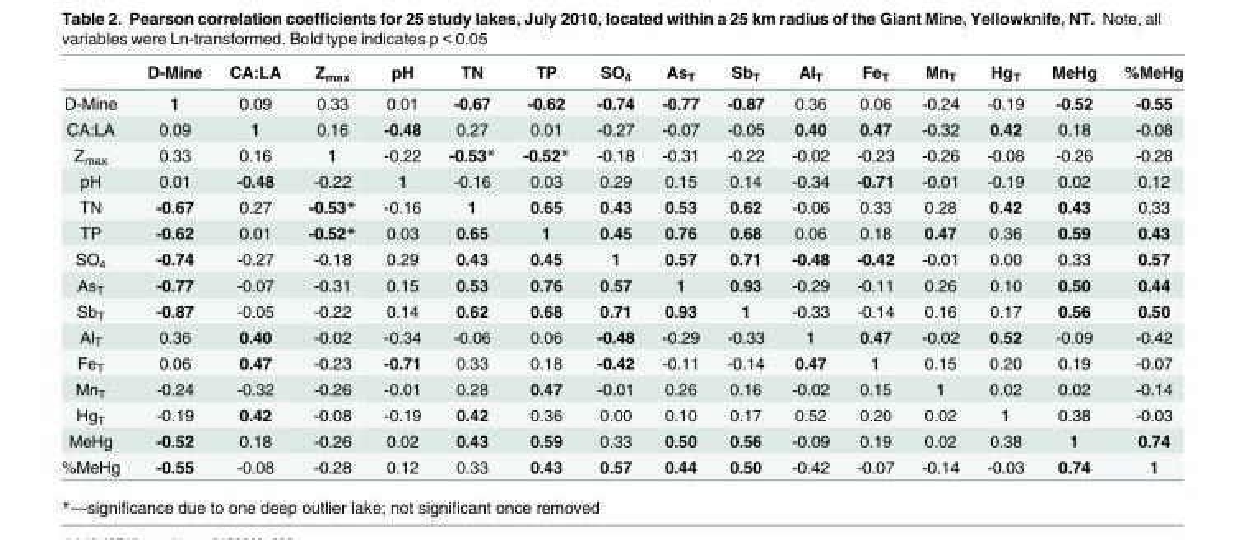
<table><thead><tr><td></td><td>D-Mine</td><td>CA:LA</td><td>Z<sub>max</sub></td><td>pH</td><td>TN</td><td>TP</td><td>SO<sub>4</sub></td><td>As<sub>T</sub></td><td>Sb<sub>T</sub></td><td>Al<sub>T</sub></td><td>Fe<sub>T</sub></td><td>Mn<sub>T</sub></td><td>Hg<sub>T</sub></td><td>MeHg</td><td>%MeHg</td></tr></thead><tbody><tr><td>D-Mine</td><td>1</td><td>0.09</td><td>0.33</td><td>0.01</td><td>-0.67</td><td>-0.62</td><td>-0.74</td><td>-0.77</td><td>-0.87</td><td>0.36</td><td>0.06</td><td>-0.24</td><td>-0.19</td><td>-0.52</td><td>-0.55</td></tr><tr><td>CA:LA</td><td>0.09</td><td>1</td><td>0.16</td><td>-0.48</td><td>0.27</td><td>0.01</td><td>-0.27</td><td>-0.07</td><td>-0.05</td><td>0.40</td><td>0.47</td><td>-0.32</td><td>0.42</td><td>0.18</td><td>-0.08</td></tr><tr><td>Z<sub>max</sub></td><td>0.33</td><td>0.16</td><td>1</td><td>-0.22</td><td>-0.53*</td><td>-0.52*</td><td>-0.18</td><td>-0.31</td><td>-0.22</td><td>-0.02</td><td>-0.23</td><td>-0.26</td><td>-0.08</td><td>-0.26</td><td>-0.28</td></tr><tr><td>pH</td><td>0.01</td><td>-0.48</td><td>-0.22</td><td>1</td><td>-0.16</td><td>0.03</td><td>0.29</td><td>0.15</td><td>0.14</td><td>-0.34</td><td>-0.71</td><td>-0.01</td><td>-0.19</td><td>0.02</td><td>0.12</td></tr><tr><td>TN</td><td>-0.67</td><td>0.27</td><td>-0.53*</td><td>-0.16</td><td>1</td><td>0.65</td><td>0.43</td><td>0.53</td><td>0.62</td><td>-0.06</td><td>0.33</td><td>0.28</td><td>0.42</td><td>0.43</td><td>0.33</td></tr><tr><td>TP</td><td>-0.62</td><td>0.01</td><td>-0.52*</td><td>0.03</td><td>0.65</td><td>1</td><td>0.45</td><td>0.76</td><td>0.68</td><td>0.06</td><td>0.18</td><td>0.47</td><td>0.36</td><td>0.59</td><td>0.43</td></tr><tr><td>SO<sub>4</sub></td><td>-0.74</td><td>-0.27</td><td>-0.18</td><td>0.29</td><td>0.43</td><td>0.45</td><td>1</td><td>0.57</td><td>0.71</td><td>-0.48</td><td>-0.42</td><td>-0.01</td><td>0.00</td><td>0.33</td><td>0.57</td></tr><tr><td>As<sub>T</sub></td><td>-0.77</td><td>-0.07</td><td>-0.31</td><td>0.15</td><td>0.53</td><td>0.76</td><td>0.57</td><td>1</td><td>0.93</td><td>-0.29</td><td>-0.11</td><td>0.26</td><td>0.10</td><td>0.50</td><td>0.44</td></tr><tr><td>Sb<sub>T</sub></td><td>-0.87</td><td>-0.05</td><td>-0.22</td><td>0.14</td><td>0.62</td><td>0.68</td><td>0.71</td><td>0.93</td><td>1</td><td>-0.33</td><td>-0.14</td><td>0.16</td><td>0.17</td><td>0.56</td><td>0.50</td></tr><tr><td>Al<sub>T</sub></td><td>0.36</td><td>0.40</td><td>-0.02</td><td>-0.34</td><td>-0.06</td><td>0.06</td><td>-0.48</td><td>-0.29</td><td>-0.33</td><td>1</td><td>0.47</td><td>-0.02</td><td>0.52</td><td>-0.09</td><td>-0.42</td></tr><tr><td>Fe<sub>T</sub></td><td>0.06</td><td>0.47</td><td>-0.23</td><td>-0.71</td><td>0.33</td><td>0.18</td><td>-0.42</td><td>-0.11</td><td>-0.14</td><td>0.47</td><td>1</td><td>0.15</td><td>0.20</td><td>0.19</td><td>-0.07</td></tr><tr><td>Mn<sub>T</sub></td><td>-0.24</td><td>-0.32</td><td>-0.26</td><td>-0.01</td><td>0.28</td><td>0.47</td><td>-0.01</td><td>0.26</td><td>0.16</td><td>-0.02</td><td>0.15</td><td>1</td><td>0.02</td><td>0.02</td><td>-0.14</td></tr><tr><td>Hg<sub>T</sub></td><td>-0.19</td><td>0.42</td><td>-0.08</td><td>-0.19</td><td>0.42</td><td>0.36</td><td>0.00</td><td>0.10</td><td>0.17</td><td>0.52</td><td>0.20</td><td>0.02</td><td>1</td><td>0.38</td><td>-0.03</td></tr><tr><td>MeHg</td><td>-0.52</td><td>0.18</td><td>-0.26</td><td>0.02</td><td>0.43</td><td>0.59</td><td>0.33</td><td>0.50</td><td>0.56</td><td>-0.09</td><td>0.19</td><td>0.02</td><td>0.38</td><td>1</td><td>0.74</td></tr><tr><td>%MeHg</td><td>-0.55</td><td>-0.08</td><td>-0.28</td><td>0.12</td><td>0.33</td><td>0.43</td><td>0.57</td><td>0.44</td><td>0.50</td><td>-0.42</td><td>-0.07</td><td>-0.14</td><td>-0.03</td><td>0.74</td><td>1</td></tr></tbody></table>